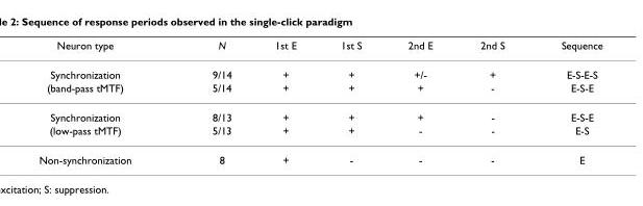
<table><thead><tr><td>Neuron type</td><td>N</td><td>1st E</td><td>1st S</td><td>2nd E</td><td>2nd S</td><td>Sequence</td></tr></thead><tbody><tr><td>Synchronization</td><td>9/14</td><td>+</td><td>+</td><td>+/-</td><td>+</td><td>E-S-E-S</td></tr><tr><td>(band-pass tMTF)</td><td>5/14</td><td>+</td><td>+</td><td>+</td><td>-</td><td>E-S-E</td></tr><tr><td>Synchronization</td><td>8/13</td><td>+</td><td>+</td><td>+</td><td>-</td><td>E-S-E</td></tr><tr><td>(low-pass tMTF)</td><td>5/13</td><td>+</td><td>+</td><td>-</td><td>-</td><td>E-S</td></tr><tr><td>Non-synchronization</td><td>8</td><td>+</td><td>-</td><td>-</td><td>-</td><td>E</td></tr></tbody></table>